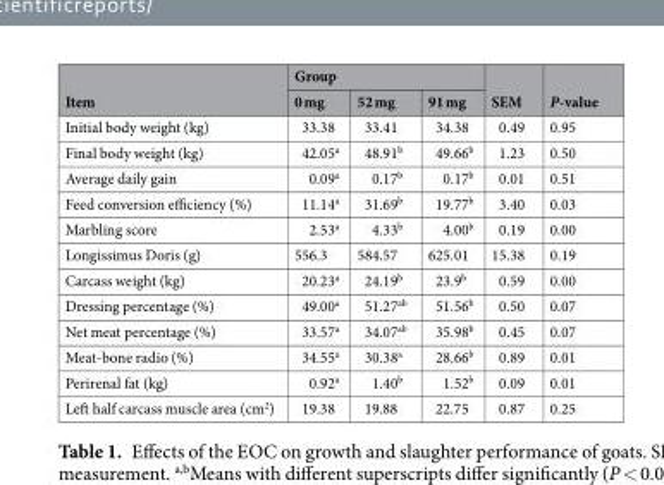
<table><thead><tr><td rowspan="2">Item</td><td colspan="3">Group</td><td rowspan="2">SEM</td><td rowspan="2">P-value</td></tr><tr><td>0 mg</td><td>52 mg</td><td>91 mg</td></tr></thead><tbody><tr><td>Initial body weight (kg)</td><td>33.38</td><td>33.41</td><td>34.38</td><td>0.49</td><td>0.95</td></tr><tr><td>Final body weight (kg)</td><td>42.05<sup>a</sup></td><td>48.91<sup>b</sup></td><td>49.66<sup>b</sup></td><td>1.23</td><td>0.50</td></tr><tr><td>Average daily gain</td><td>0.09<sup>a</sup></td><td>0.17<sup>b</sup></td><td>0.17<sup>b</sup></td><td>0.01</td><td>0.51</td></tr><tr><td>Feed conversion efficiency (%)</td><td>11.14<sup>a</sup></td><td>31.69<sup>b</sup></td><td>19.77<sup>b</sup></td><td>3.40</td><td>0.03</td></tr><tr><td>Marbling score</td><td>2.53<sup>a</sup></td><td>4.33<sup>b</sup></td><td>4.00<sup>b</sup></td><td>0.19</td><td>0.00</td></tr><tr><td>Longissimus Doris (g)</td><td>556.3</td><td>584.57</td><td>625.01</td><td>15.38</td><td>0.19</td></tr><tr><td>Carcass weight (kg)</td><td>20.23<sup>a</sup></td><td>24.19<sup>b</sup></td><td>23.9<sup>b</sup></td><td>0.59</td><td>0.00</td></tr><tr><td>Dressing percentage (%)</td><td>49.00<sup>a</sup></td><td>51.27<sup>ab</sup></td><td>51.56<sup>b</sup></td><td>0.50</td><td>0.07</td></tr><tr><td>Net meat percentage (%)</td><td>33.57<sup>a</sup></td><td>34.07<sup>ab</sup></td><td>35.98<sup>b</sup></td><td>0.45</td><td>0.07</td></tr><tr><td>Meat-bone radio (%)</td><td>34.55<sup>a</sup></td><td>30.38<sup>a</sup></td><td>28.66<sup>b</sup></td><td>0.89</td><td>0.01</td></tr><tr><td>Perirenal fat (kg)</td><td>0.92<sup>a</sup></td><td>1.40<sup>b</sup></td><td>1.52<sup>b</sup></td><td>0.09</td><td>0.01</td></tr><tr><td>Left half carcass muscle area (cm<sup>2</sup>)</td><td>19.38</td><td>19.88</td><td>22.75</td><td>0.87</td><td>0.25</td></tr></tbody></table>